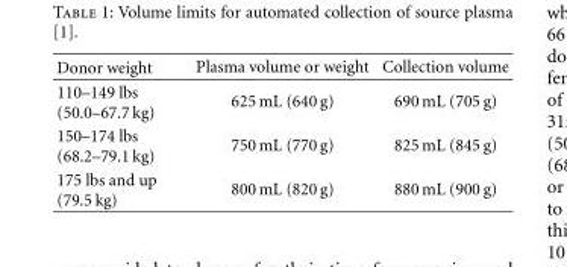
<table><thead><tr><td>Donor weight</td><td>Plasma volume or weight</td><td>Collection volume</td></tr></thead><tbody><tr><td>110–149 lbs (50.0–67.7 kg)</td><td>625 mL (640 g)</td><td>690 mL (705 g)</td></tr><tr><td>150–174 lbs (68.2–79.1 kg)</td><td>750 mL (770 g)</td><td>825 mL (845 g)</td></tr><tr><td>175 lbs and up (79.5 kg)</td><td>800 mL (820 g)</td><td>880 mL (900 g)</td></tr></tbody></table>